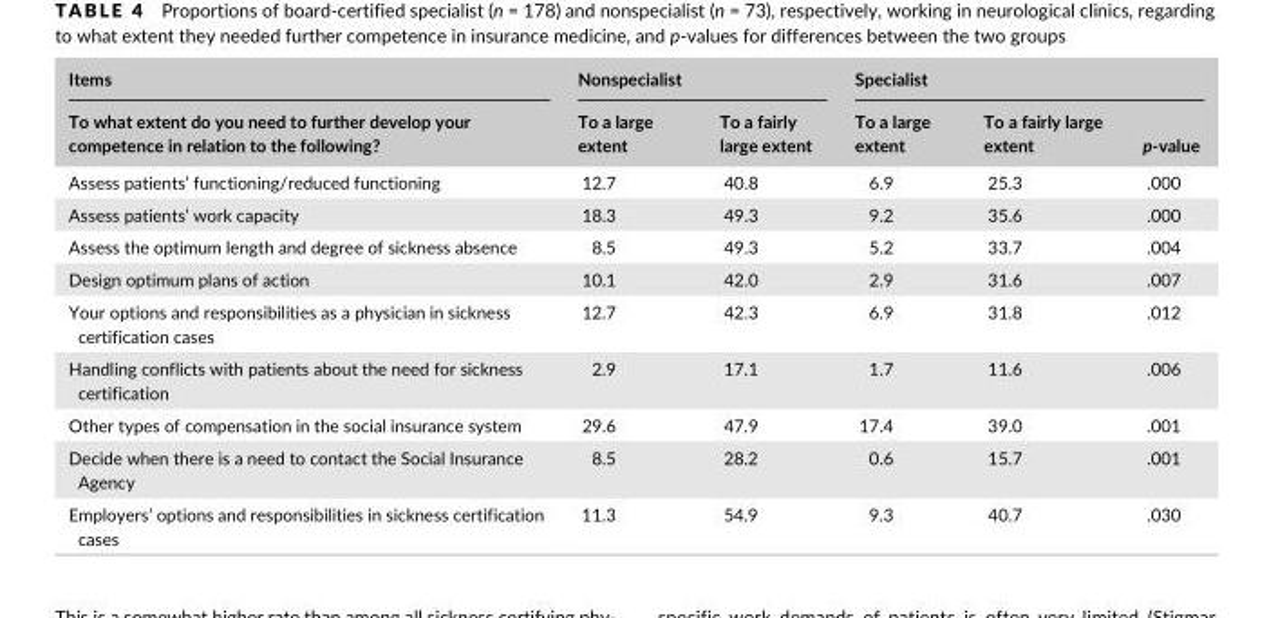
<table><thead><tr><td rowspan="2">Items To what extent do you need to further develop your competence in relation to the following?</td><td colspan="2">Nonspecialist</td><td colspan="3">Specialist</td></tr><tr><td>To a large extent</td><td>To a fairly large extent</td><td>To a large extent</td><td>To a fairly large extent</td><td>p- value</td></tr></thead><tbody><tr><td>Assess patients’ functioning/reduced functioning</td><td>12.7</td><td>40.8</td><td>6.9</td><td>25.3</td><td>.000</td></tr><tr><td>Assess patients’ work capacity</td><td>18.3</td><td>49.3</td><td>9.2</td><td>35.6</td><td>.000</td></tr><tr><td>Assess the optimum length and degree of sickness absence</td><td>8.5</td><td>49.3</td><td>5.2</td><td>33.7</td><td>.004</td></tr><tr><td>Design optimum plans of action</td><td>10.1</td><td>42.0</td><td>2.9</td><td>31.6</td><td>.007</td></tr><tr><td>Your options and responsibilities as a physician in sickness certification cases</td><td>12.7</td><td>42.3</td><td>6.9</td><td>31.8</td><td>.012</td></tr><tr><td>Handling conflicts with patients about the need for sickness certification</td><td>2.9</td><td>17.1</td><td>1.7</td><td>11.6</td><td>.006</td></tr><tr><td>Other types of compensation in the social insurance system</td><td>29.6</td><td>47.9</td><td>17.4</td><td>39.0</td><td>.001</td></tr><tr><td>Decide when there is a need to contact the Social Insurance Agency</td><td>8.5</td><td>28.2</td><td>0.6</td><td>15.7</td><td>.001</td></tr><tr><td>Employers’ options and responsibilities in sickness certification cases</td><td>11.3</td><td>54.9</td><td>9.3</td><td>40.7</td><td>.030</td></tr></tbody></table>